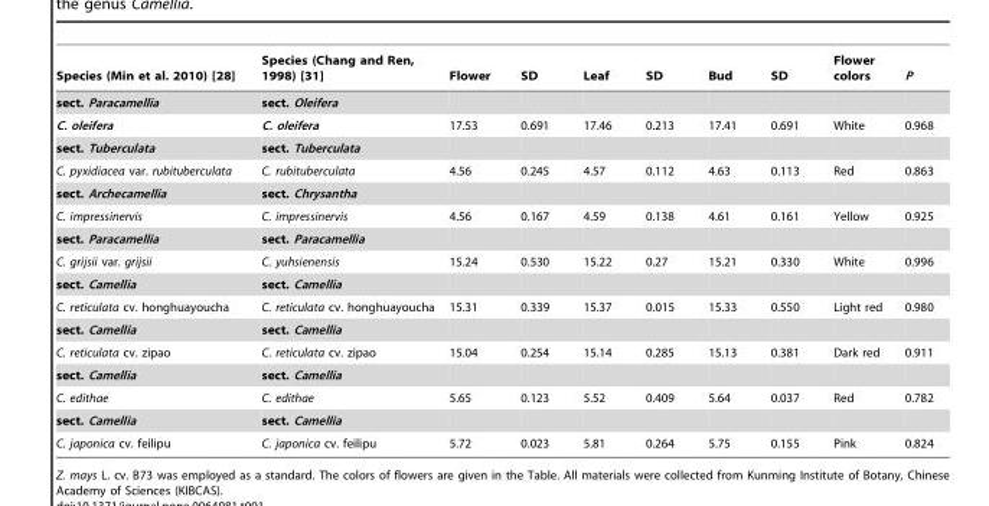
<table><thead><tr><td>Species (Min et al. 2010) [28]</td><td>Species (Chang and Ren, 1998) [31]</td><td>Flower</td><td>SD</td><td>Leaf</td><td>SD</td><td>Bud</td><td>SD</td><td>Flower colors</td><td>P</td></tr></thead><tbody><tr><td>sect. Paracamellia</td><td>sect. Oleifera</td><td></td><td></td><td></td><td></td><td></td><td></td><td></td><td></td></tr><tr><td>C. oleifera</td><td>C. oleifera</td><td>17.53</td><td>0.691</td><td>17.46</td><td>0.213</td><td>17.41</td><td>0.691</td><td>White</td><td>0.968</td></tr><tr><td>sect. Tuberculata</td><td>sect. Tuberculata</td><td></td><td></td><td></td><td></td><td></td><td></td><td></td><td></td></tr><tr><td>C. pyxidiacea var. rubituberculata</td><td>C. rubituberculata</td><td>4.56</td><td>0.245</td><td>4.57</td><td>0.112</td><td>4.63</td><td>0.113</td><td>Red</td><td>0.863</td></tr><tr><td>sect. Archecamellia</td><td>sect. Chrysantha</td><td></td><td></td><td></td><td></td><td></td><td></td><td></td><td></td></tr><tr><td>C. impressinervis</td><td>C. impressinervis</td><td>4.56</td><td>0.167</td><td>4.59</td><td>0.138</td><td>4.61</td><td>0.161</td><td>Yellow</td><td>0.925</td></tr><tr><td>sect. Paracamellia</td><td>sect. Paracamellia</td><td></td><td></td><td></td><td></td><td></td><td></td><td></td><td></td></tr><tr><td>C. grijsii var. grijsii</td><td>C. yuhsienensis</td><td>15.24</td><td>0.530</td><td>15.22</td><td>0.27</td><td>15.21</td><td>0.330</td><td>White</td><td>0.996</td></tr><tr><td>sect. Camellia</td><td>sect. Camellia</td><td></td><td></td><td></td><td></td><td></td><td></td><td></td><td></td></tr><tr><td>C. reticulata cv. honghuayoucha</td><td>C. reticulata cv. honghuayoucha</td><td>15.31</td><td>0.339</td><td>15.37</td><td>0.015</td><td>15.33</td><td>0.550</td><td>Light red</td><td>0.980</td></tr><tr><td>sect. Camellia</td><td>sect. Camellia</td><td></td><td></td><td></td><td></td><td></td><td></td><td></td><td></td></tr><tr><td>C. reticulata cv. zipao</td><td>C. reticulata cv. zipao</td><td>15.04</td><td>0.254</td><td>15.14</td><td>0.285</td><td>15.13</td><td>0.381</td><td>Dark red</td><td>0.911</td></tr><tr><td>sect. Camellia</td><td>sect. Camellia</td><td></td><td></td><td></td><td></td><td></td><td></td><td></td><td></td></tr><tr><td>C. edithae</td><td>C. edithae</td><td>5.65</td><td>0.123</td><td>5.52</td><td>0.409</td><td>5.64</td><td>0.037</td><td>Red</td><td>0.782</td></tr><tr><td>sect. Camellia</td><td>sect. Camellia</td><td></td><td></td><td></td><td></td><td></td><td></td><td></td><td></td></tr><tr><td>C. japonica cv. feilipu</td><td>C. japonica cv. feilipu</td><td>5.72</td><td>0.023</td><td>5.81</td><td>0.264</td><td>5.75</td><td>0.155</td><td>Pink</td><td>0.824</td></tr></tbody></table>